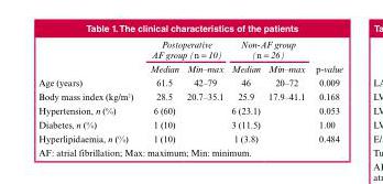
<table><thead><tr><td rowspan="2"></td><td colspan="2">Postoperative AF group (n = 10)</td><td colspan="2">Non-AF group (n = 26)</td><td rowspan="2">p-value</td></tr><tr><td>Median</td><td>Min–max</td><td>Median</td><td>Min–max</td></tr></thead><tbody><tr><td>Age (years)</td><td>61.5</td><td>42–79</td><td>46</td><td>20–72</td><td>0.009</td></tr><tr><td>Body mass index (kg/m2)</td><td>28.5</td><td>20.7–35.1</td><td>25.9</td><td>17.9–41.1</td><td>0.168</td></tr><tr><td>Hypertension, n (%)</td><td>6 (60)</td><td></td><td>6 (23.1)</td><td></td><td>0.053</td></tr><tr><td>Diabetes, n (%)</td><td>1 (10)</td><td></td><td>3 (11.5)</td><td></td><td>1.00</td></tr><tr><td>Hyperlipidaemia, n (%)</td><td>1 (10)</td><td></td><td>1 (3.8)</td><td></td><td>0.484</td></tr></tbody></table>